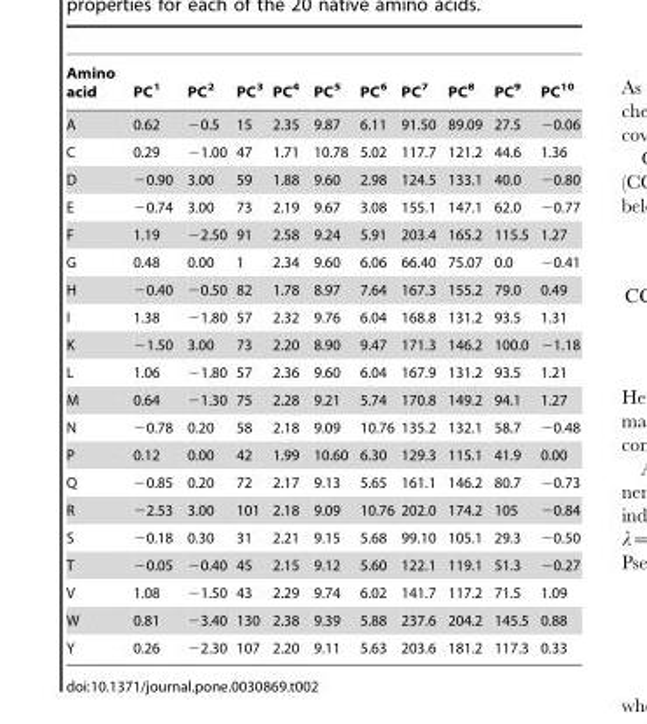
<table><thead><tr><td>Amino acid</td><td>PC<sup>1</sup></td><td>PC<sup>2</sup></td><td>PC<sup>3</sup></td><td>PC<sup>4</sup></td><td>PC<sup>5</sup></td><td>PC<sup>6</sup></td><td>PC<sup>7</sup></td><td>PC<sup>8</sup></td><td>PC<sup>9</sup></td><td>PC<sup>10</sup></td></tr></thead><tbody><tr><td>A</td><td>0.62</td><td>−0.5</td><td>15</td><td>2.35</td><td>9.87</td><td>6.11</td><td>91.50</td><td>89.09</td><td>27.5</td><td>−0.06</td></tr><tr><td>C</td><td>0.29</td><td>−1.00</td><td>47</td><td>1.71</td><td>10.78</td><td>5.02</td><td>117.7</td><td>121.2</td><td>44.6</td><td>1.36</td></tr><tr><td>D</td><td>−0.90</td><td>3.00</td><td>59</td><td>1.88</td><td>9.60</td><td>2.98</td><td>124.5</td><td>133.1</td><td>40.0</td><td>−0.80</td></tr><tr><td>E</td><td>−0.74</td><td>3.00</td><td>73</td><td>2.19</td><td>9.67</td><td>3.08</td><td>155.1</td><td>147.1</td><td>62.0</td><td>−0.77</td></tr><tr><td>F</td><td>1.19</td><td>−2.50</td><td>91</td><td>2.58</td><td>9.24</td><td>5.91</td><td>203.4</td><td>165.2</td><td>115.5</td><td>1.27</td></tr><tr><td>G</td><td>0.48</td><td>0.00</td><td>1</td><td>2.34</td><td>9.60</td><td>6.06</td><td>66.40</td><td>75.07</td><td>0.0</td><td>−0.41</td></tr><tr><td>H</td><td>−0.40</td><td>−0.50</td><td>82</td><td>1.78</td><td>8.97</td><td>7.64</td><td>167.3</td><td>155.2</td><td>79.0</td><td>0.49</td></tr><tr><td>I</td><td>1.38</td><td>−1.80</td><td>57</td><td>2.32</td><td>9.76</td><td>6.04</td><td>168.8</td><td>131.2</td><td>93.5</td><td>1.31</td></tr><tr><td>K</td><td>−1.50</td><td>3.00</td><td>73</td><td>2.20</td><td>8.90</td><td>9.47</td><td>171.3</td><td>146.2</td><td>100.0</td><td>−1.18</td></tr><tr><td>L</td><td>1.06</td><td>−1.80</td><td>57</td><td>2.36</td><td>9.60</td><td>6.04</td><td>167.9</td><td>131.2</td><td>93.5</td><td>1.21</td></tr><tr><td>M</td><td>0.64</td><td>−1.30</td><td>75</td><td>2.28</td><td>9.21</td><td>5.74</td><td>170.8</td><td>149.2</td><td>94.1</td><td>1.27</td></tr><tr><td>N</td><td>−0.78</td><td>0.20</td><td>58</td><td>2.18</td><td>9.09</td><td>10.76</td><td>135.2</td><td>132.1</td><td>58.7</td><td>−0.48</td></tr><tr><td>P</td><td>0.12</td><td>0.00</td><td>42</td><td>1.99</td><td>10.60</td><td>6.30</td><td>129.3</td><td>115.1</td><td>41.9</td><td>0.00</td></tr><tr><td>Q</td><td>−0.85</td><td>0.20</td><td>72</td><td>2.17</td><td>9.13</td><td>5.65</td><td>161.1</td><td>146.2</td><td>80.7</td><td>−0.73</td></tr><tr><td>R</td><td>−2.53</td><td>3.00</td><td>101</td><td>2.18</td><td>9.09</td><td>10.76</td><td>202.0</td><td>174.2</td><td>105</td><td>−0.84</td></tr><tr><td>S</td><td>−0.18</td><td>0.30</td><td>31</td><td>2.21</td><td>9.15</td><td>5.68</td><td>99.10</td><td>105.1</td><td>29.3</td><td>−0.50</td></tr><tr><td>T</td><td>−0.05</td><td>−0.40</td><td>45</td><td>2.15</td><td>9.12</td><td>5.60</td><td>122.1</td><td>119.1</td><td>51.3</td><td>−0.27</td></tr><tr><td>V</td><td>1.08</td><td>−1.50</td><td>43</td><td>2.29</td><td>9.74</td><td>6.02</td><td>141.7</td><td>117.2</td><td>71.5</td><td>1.09</td></tr><tr><td>W</td><td>0.81</td><td>−3.40</td><td>130</td><td>2.38</td><td>9.39</td><td>5.88</td><td>237.6</td><td>204.2</td><td>145.5</td><td>0.88</td></tr><tr><td>Y</td><td>0.26</td><td>−2.30</td><td>107</td><td>2.20</td><td>9.11</td><td>5.63</td><td>203.6</td><td>181.2</td><td>117.3</td><td>0.33</td></tr></tbody></table>